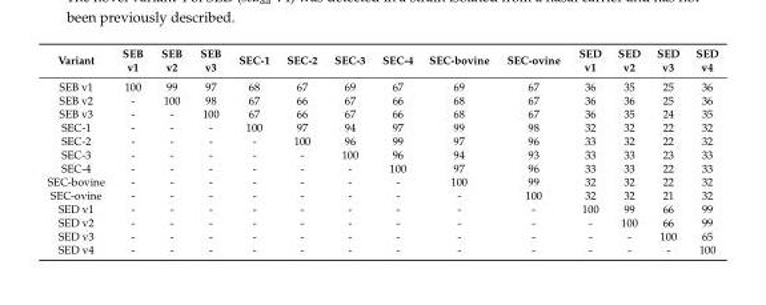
<table><thead><tr><td>Variant</td><td>SEB v1</td><td>SEB v2</td><td>SEB v3</td><td>SEC-1</td><td>SEC-2</td><td>SEC-3</td><td>SEC-4</td><td>SEC-bovine</td><td>SEC-ovine</td><td>SED v1</td><td>SED v2</td><td>SED v3</td><td>SED v4</td></tr></thead><tbody><tr><td>SEB v1</td><td>100</td><td>99</td><td>97</td><td>68</td><td>67</td><td>69</td><td>67</td><td>69</td><td>67</td><td>36</td><td>35</td><td>25</td><td>36</td></tr><tr><td>SEB v2</td><td>-</td><td>100</td><td>98</td><td>67</td><td>66</td><td>67</td><td>66</td><td>68</td><td>67</td><td>36</td><td>36</td><td>25</td><td>36</td></tr><tr><td>SEB v3</td><td>-</td><td>-</td><td>100</td><td>67</td><td>66</td><td>67</td><td>66</td><td>68</td><td>67</td><td>36</td><td>35</td><td>24</td><td>35</td></tr><tr><td>SEC-1</td><td>-</td><td>-</td><td>-</td><td>100</td><td>97</td><td>94</td><td>97</td><td>99</td><td>98</td><td>32</td><td>32</td><td>22</td><td>32</td></tr><tr><td>SEC-2</td><td>-</td><td>-</td><td>-</td><td>-</td><td>100</td><td>96</td><td>99</td><td>97</td><td>96</td><td>33</td><td>32</td><td>22</td><td>32</td></tr><tr><td>SEC-3</td><td>-</td><td>-</td><td>-</td><td>-</td><td>-</td><td>100</td><td>96</td><td>94</td><td>93</td><td>33</td><td>33</td><td>23</td><td>33</td></tr><tr><td>SEC-4</td><td>-</td><td>-</td><td>-</td><td>-</td><td>-</td><td>-</td><td>100</td><td>97</td><td>96</td><td>33</td><td>33</td><td>22</td><td>33</td></tr><tr><td>SEC-bovine</td><td>-</td><td>-</td><td>-</td><td>-</td><td>-</td><td>-</td><td>-</td><td>100</td><td>99</td><td>32</td><td>32</td><td>22</td><td>32</td></tr><tr><td>SEC-ovine</td><td>-</td><td>-</td><td>-</td><td>-</td><td>-</td><td>-</td><td>-</td><td>-</td><td>100</td><td>32</td><td>32</td><td>21</td><td>32</td></tr><tr><td>SED v1</td><td>-</td><td>-</td><td>-</td><td>-</td><td>-</td><td>-</td><td>-</td><td>-</td><td>-</td><td>100</td><td>99</td><td>66</td><td>99</td></tr><tr><td>SED v2</td><td>-</td><td>-</td><td>-</td><td>-</td><td>-</td><td>-</td><td>-</td><td>-</td><td>-</td><td>-</td><td>100</td><td>66</td><td>99</td></tr><tr><td>SED v3</td><td>-</td><td>-</td><td>-</td><td>-</td><td>-</td><td>-</td><td>-</td><td>-</td><td>-</td><td>-</td><td>-</td><td>100</td><td>65</td></tr><tr><td>SED v4</td><td>-</td><td>-</td><td>-</td><td>-</td><td>-</td><td>-</td><td>-</td><td>-</td><td>-</td><td>-</td><td>-</td><td>-</td><td>100</td></tr></tbody></table>